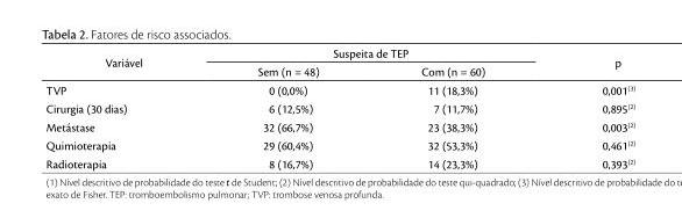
<table><thead><tr><td rowspan="2">Variável</td><td colspan="2">Suspeita de TEP</td><td rowspan="2">p</td></tr><tr><td>Sem (n = 48)</td><td>Com (n = 60)</td></tr></thead><tbody><tr><td>TVP</td><td>0 (0,0%)</td><td>11 (18,3%)</td><td>0,001(3)</td></tr><tr><td>Cirurgia (30 dias)</td><td>6 (12,5%)</td><td>7 (11,7%)</td><td>0,895(2)</td></tr><tr><td>Metástase</td><td>32 (66,7%)</td><td>23 (38,3%)</td><td>0,003(2)</td></tr><tr><td>Quimioterapia</td><td>29 (60,4%)</td><td>32 (53,3%)</td><td>0,461(2)</td></tr><tr><td>Radioterapia</td><td>8 (16,7%)</td><td>14 (23,3%)</td><td>0,393(2)</td></tr></tbody></table>